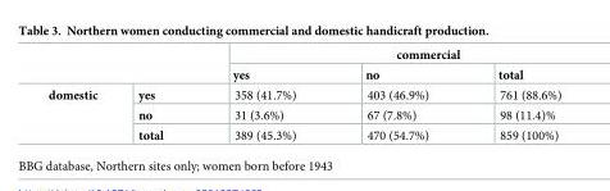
<table><thead><tr><td rowspan="2"></td><td rowspan="2"></td><td colspan="3">commercial</td></tr><tr><td>yes</td><td>no</td><td>total</td></tr></thead><tbody><tr><td rowspan="3">domestic</td><td>yes</td><td>358 (41.7%)</td><td>403 (46.9%)</td><td>761 (88.6%)</td></tr><tr><td>no</td><td>31 (3.6%)</td><td>67 (7.8%)</td><td>98 (11.4)%</td></tr><tr><td>total</td><td>389 (45.3%)</td><td>470 (54.7%)</td><td>859 (100%)</td></tr></tbody></table>